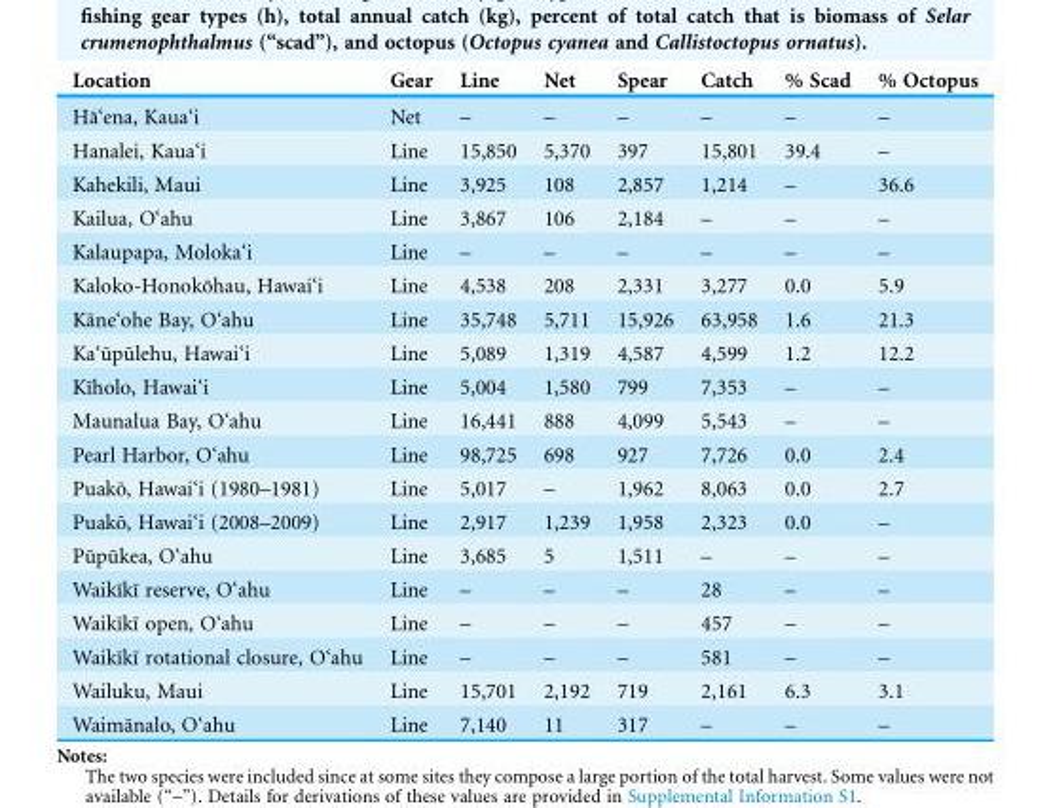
<table><thead><tr><td>Location</td><td>Gear</td><td>Line</td><td>Net</td><td>Spear</td><td>Catch</td><td>% Scad</td><td>% Octopus</td></tr></thead><tbody><tr><td>Ha¯‘ena, Kaua‘i</td><td>Net</td><td>–</td><td>–</td><td>–</td><td>–</td><td>–</td><td>–</td></tr><tr><td>Hanalei, Kaua‘i</td><td>Line</td><td>15,850</td><td>5,370</td><td>397</td><td>15,801</td><td>39.4</td><td>–</td></tr><tr><td>Kahekili, Maui</td><td>Line</td><td>3,925</td><td>108</td><td>2,857</td><td>1,214</td><td>–</td><td>36.6</td></tr><tr><td>Kailua, O‘ahu</td><td>Line</td><td>3,867</td><td>106</td><td>2,184</td><td>–</td><td>–</td><td>–</td></tr><tr><td>Kalaupapa, Moloka‘i</td><td>Line</td><td>–</td><td>–</td><td>–</td><td>–</td><td>–</td><td>–</td></tr><tr><td>Kaloko-Honoko¯hau, Hawai‘i</td><td>Line</td><td>4,538</td><td>208</td><td>2,331</td><td>3,277</td><td>0.0</td><td>5.9</td></tr><tr><td>Ka¯ne‘ohe Bay, O‘ahu</td><td>Line</td><td>35,748</td><td>5,711</td><td>15,926</td><td>63,958</td><td>1.6</td><td>21.3</td></tr><tr><td>Ka‘u¯pu¯lehu, Hawai‘i</td><td>Line</td><td>5,089</td><td>1,319</td><td>4,587</td><td>4,599</td><td>1.2</td><td>12.2</td></tr><tr><td>Kı¯holo, Hawai‘i</td><td>Line</td><td>5,004</td><td>1,580</td><td>799</td><td>7,353</td><td>–</td><td>–</td></tr><tr><td>Maunalua Bay, O‘ahu</td><td>Line</td><td>16,441</td><td>888</td><td>4,099</td><td>5,543</td><td>–</td><td>–</td></tr><tr><td>Pearl Harbor, O‘ahu</td><td>Line</td><td>98,725</td><td>698</td><td>927</td><td>7,726</td><td>0.0</td><td>2.4</td></tr><tr><td>Puako¯, Hawai‘i (1980–1981)</td><td>Line</td><td>5,017</td><td>–</td><td>1,962</td><td>8,063</td><td>0.0</td><td>2.7</td></tr><tr><td>Puako¯, Hawai‘i (2008–2009)</td><td>Line</td><td>2,917</td><td>1,239</td><td>1,958</td><td>2,323</td><td>0.0</td><td>–</td></tr><tr><td>Pu¯pu¯kea, O‘ahu</td><td>Line</td><td>3,685</td><td>5</td><td>1,511</td><td>–</td><td>–</td><td>–</td></tr><tr><td>Waikı¯kı¯ reserve, O‘ahu</td><td>Line</td><td>–</td><td>–</td><td>–</td><td>28</td><td>–</td><td>–</td></tr><tr><td>Waikı¯kı¯ open, O‘ahu</td><td>Line</td><td>–</td><td>–</td><td>–</td><td>457</td><td>–</td><td>–</td></tr><tr><td>Waikı¯kı¯ rotational closure, O‘ahu</td><td>Line</td><td>–</td><td>–</td><td>–</td><td>581</td><td>–</td><td>–</td></tr><tr><td>Wailuku, Maui</td><td>Line</td><td>15,701</td><td>2,192</td><td>719</td><td>2,161</td><td>6.3</td><td>3.1</td></tr><tr><td>Waima¯nalo, O‘ahu</td><td>Line</td><td>7,140</td><td>11</td><td>317</td><td>–</td><td>–</td><td>–</td></tr></tbody></table>